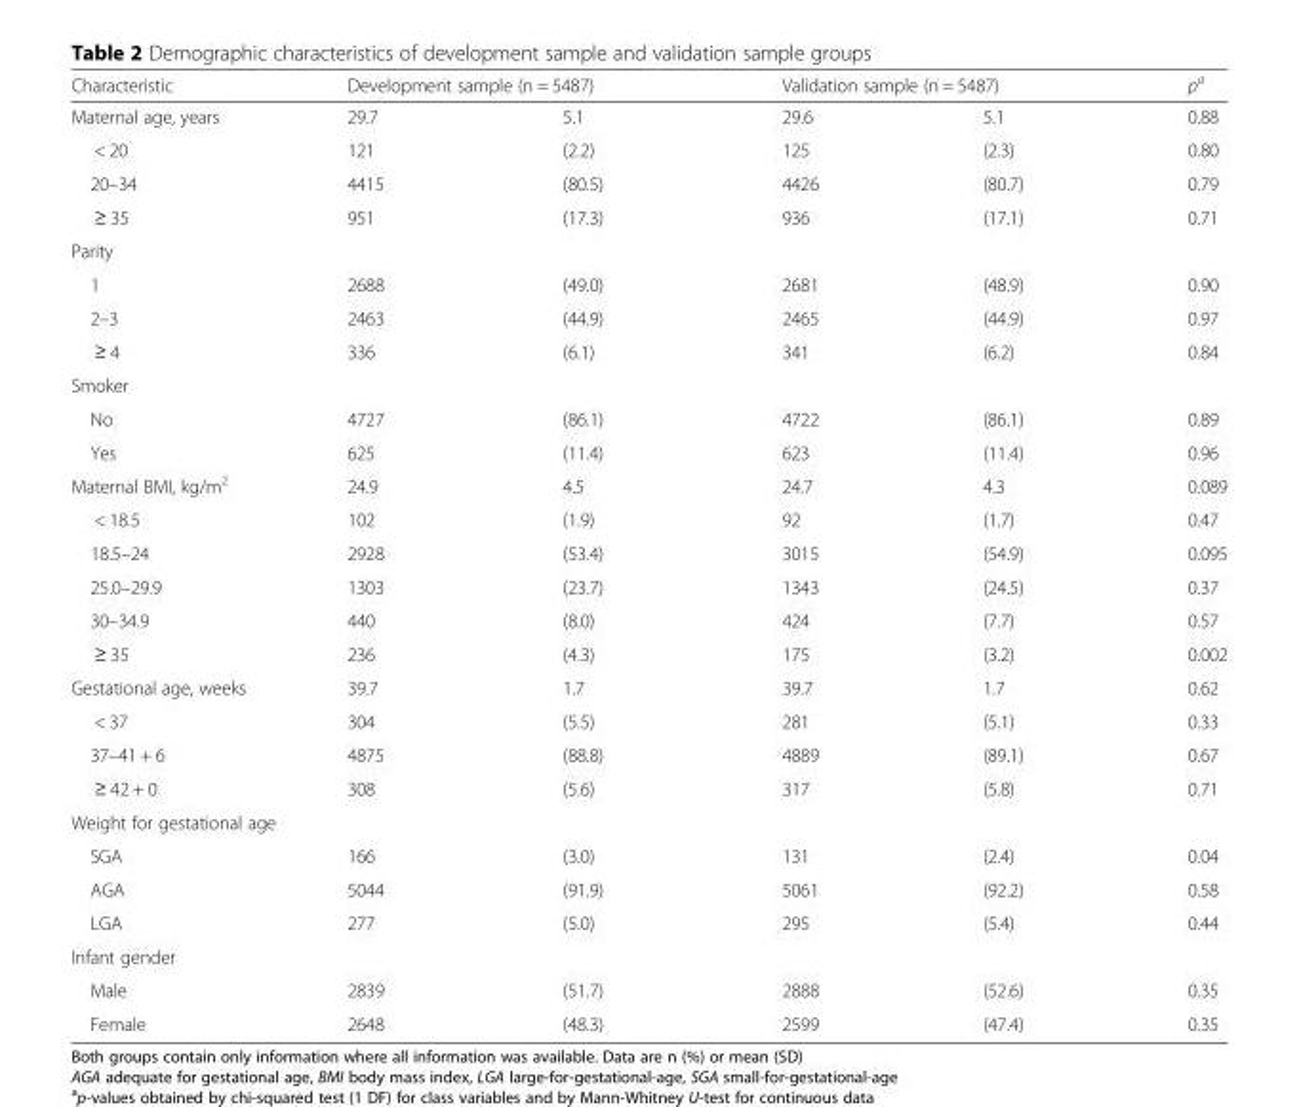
<table><thead><tr><td rowspan="2">Characteristic Maternal age, years</td><td colspan="2">Development sample (n = 5487)</td><td colspan="2">Validation sample (n = 5487)</td><td rowspan="2">p<sup>a</sup> 0.88</td></tr><tr><td>29.7</td><td>5.1</td><td>29.6</td><td>5.1</td></tr></thead><tbody><tr><td>&lt; 20</td><td>121</td><td>(2.2)</td><td>125</td><td>(2.3)</td><td>0.80</td></tr><tr><td>20–34</td><td>4415</td><td>(80.5)</td><td>4426</td><td>(80.7)</td><td>0.79</td></tr><tr><td>≥ 35</td><td>951</td><td>(17.3)</td><td>936</td><td>(17.1)</td><td>0.71</td></tr><tr><td colspan="6">Parity</td></tr><tr><td>1</td><td>2688</td><td>(49.0)</td><td>2681</td><td>(48.9)</td><td>0.90</td></tr><tr><td>2–3</td><td>2463</td><td>(44.9)</td><td>2465</td><td>(44.9)</td><td>0.97</td></tr><tr><td>≥ 4</td><td>336</td><td>(6.1)</td><td>341</td><td>(6.2)</td><td>0.84</td></tr><tr><td colspan="6">Smoker</td></tr><tr><td>No</td><td>4727</td><td>(86.1)</td><td>4722</td><td>(86.1)</td><td>0.89</td></tr><tr><td>Yes</td><td>625</td><td>(11.4)</td><td>623</td><td>(11.4)</td><td>0.96</td></tr><tr><td>Maternal BMI, kg/m<sup>2</sup></td><td>24.9</td><td>4.5</td><td>24.7</td><td>4.3</td><td>0.089</td></tr><tr><td>&lt; 18.5</td><td>102</td><td>(1.9)</td><td>92</td><td>(1.7)</td><td>0.47</td></tr><tr><td>18.5–24</td><td>2928</td><td>(53.4)</td><td>3015</td><td>(54.9)</td><td>0.095</td></tr><tr><td>25.0–29.9</td><td>1303</td><td>(23.7)</td><td>1343</td><td>(24.5)</td><td>0.37</td></tr><tr><td>30–34.9</td><td>440</td><td>(8.0)</td><td>424</td><td>(7.7)</td><td>0.57</td></tr><tr><td>≥ 35</td><td>236</td><td>(4.3)</td><td>175</td><td>(3.2)</td><td>0.002</td></tr><tr><td>Gestational age, weeks</td><td>39.7</td><td>1.7</td><td>39.7</td><td>1.7</td><td>0.62</td></tr><tr><td>&lt; 37</td><td>304</td><td>(5.5)</td><td>281</td><td>(5.1)</td><td>0.33</td></tr><tr><td>37–41 + 6</td><td>4875</td><td>(88.8)</td><td>4889</td><td>(89.1)</td><td>0.67</td></tr><tr><td>≥ 42 + 0</td><td>308</td><td>(5.6)</td><td>317</td><td>(5.8)</td><td>0.71</td></tr><tr><td colspan="6">Weight for gestational age</td></tr><tr><td>SGA</td><td>166</td><td>(3.0)</td><td>131</td><td>(2.4)</td><td>0.04</td></tr><tr><td>AGA</td><td>5044</td><td>(91.9)</td><td>5061</td><td>(92.2)</td><td>0.58</td></tr><tr><td>LGA</td><td>277</td><td>(5.0)</td><td>295</td><td>(5.4)</td><td>0.44</td></tr><tr><td colspan="6">Infant gender</td></tr><tr><td>Male</td><td>2839</td><td>(51.7)</td><td>2888</td><td>(52.6)</td><td>0.35</td></tr><tr><td>Female</td><td>2648</td><td>(48.3)</td><td>2599</td><td>(47.4)</td><td>0.35</td></tr></tbody></table>